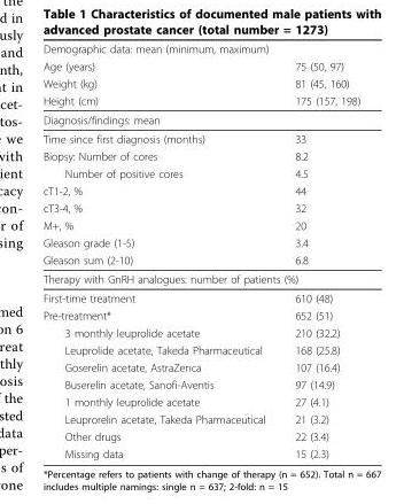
<table><thead><tr><td colspan="2">Demographic data: mean (minimum, maximum)</td></tr><tr><td rowspan="3">Age (years) Weight (kg) Height (cm)</td><td rowspan="3">75 (50, 97) 81 (45, 160) 175 (157, 198)</td></tr><tr></tr><tr></tr></thead><tbody><tr><td colspan="2">Diagnosis/findings: mean</td></tr><tr><td>Time since first diagnosis (months)</td><td>33</td></tr><tr><td>Biopsy: Number of cores</td><td>8.2</td></tr><tr><td>Number of positive cores</td><td>4.5</td></tr><tr><td>cT1-2, %</td><td>44</td></tr><tr><td>cT3-4, %</td><td>32</td></tr><tr><td>M+, %</td><td>20</td></tr><tr><td>Gleason grade (1-5)</td><td>3.4</td></tr><tr><td>Gleason sum (2-10)</td><td>6.8</td></tr><tr><td colspan="2">Therapy with GnRH analogues: number of patients (%)</td></tr><tr><td>First-time treatment</td><td>610 (48)</td></tr><tr><td>Pre-treatment*</td><td>652 (51)</td></tr><tr><td>3 monthly leuprolide acetate</td><td>210 (32.2)</td></tr><tr><td>Leuprolide acetate, Takeda Pharmaceutical</td><td>168 (25.8)</td></tr><tr><td>Goserelin acetate, AstraZenca</td><td>107 (16.4)</td></tr><tr><td>Buserelin acetate, Sanofi-Aventis</td><td>97 (14.9)</td></tr><tr><td>1 monthly leuprolide acetate</td><td>27 (4.1)</td></tr><tr><td>Leuprorelin acetate, Takeda Pharmaceutical</td><td>21 (3.2)</td></tr><tr><td>Other drugs</td><td>22 (3.4)</td></tr><tr><td>Missing data</td><td>15 (2.3)</td></tr></tbody></table>